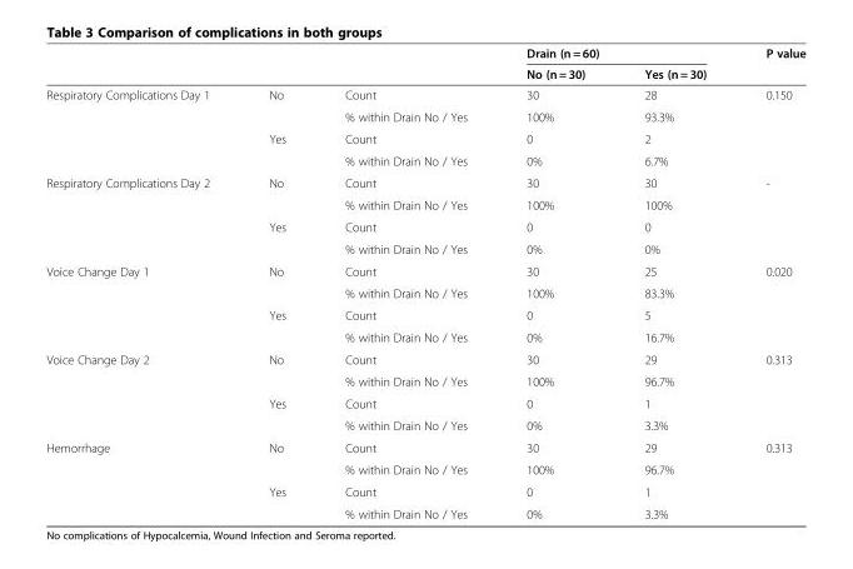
<table><thead><tr><td rowspan="2"></td><td rowspan="2"></td><td rowspan="2"></td><td colspan="2">Drain (n = 60)</td><td rowspan="2">P value</td></tr><tr><td>No (n = 30)</td><td>Yes (n = 30)</td></tr></thead><tbody><tr><td rowspan="4">Respiratory Complications Day 1</td><td>No</td><td>Count</td><td>30</td><td>28</td><td rowspan="4">0.150</td></tr><tr><td></td><td>% within Drain No / Yes</td><td>100%</td><td>93.3%</td></tr><tr><td>Yes</td><td>Count</td><td>0</td><td>2</td></tr><tr><td></td><td>% within Drain No / Yes</td><td>0%</td><td>6.7%</td></tr><tr><td rowspan="4">Respiratory Complications Day 2</td><td>No</td><td>Count</td><td>30</td><td>30</td><td rowspan="4">-</td></tr><tr><td></td><td>% within Drain No / Yes</td><td>100%</td><td>100%</td></tr><tr><td>Yes</td><td>Count</td><td>0</td><td>0</td></tr><tr><td></td><td>% within Drain No / Yes</td><td>0%</td><td>0%</td></tr><tr><td rowspan="4">Voice Change Day 1</td><td>No</td><td>Count</td><td>30</td><td>25</td><td rowspan="4">0.020</td></tr><tr><td></td><td>% within Drain No / Yes</td><td>100%</td><td>83.3%</td></tr><tr><td>Yes</td><td>Count</td><td>0</td><td>5</td></tr><tr><td></td><td>% within Drain No / Yes</td><td>0%</td><td>16.7%</td></tr><tr><td rowspan="4">Voice Change Day 2</td><td>No</td><td>Count</td><td>30</td><td>29</td><td rowspan="4">0.313</td></tr><tr><td></td><td>% within Drain No / Yes</td><td>100%</td><td>96.7%</td></tr><tr><td>Yes</td><td>Count</td><td>0</td><td>1</td></tr><tr><td></td><td>% within Drain No / Yes</td><td>0%</td><td>3.3%</td></tr><tr><td rowspan="4">Hemorrhage</td><td>No</td><td>Count</td><td>30</td><td>29</td><td rowspan="3">0.313</td></tr><tr><td></td><td>% within Drain No / Yes</td><td>100%</td><td>96.7%</td></tr><tr><td>Yes</td><td>Count</td><td>0</td><td>1</td></tr><tr><td></td><td>% within Drain No / Yes</td><td>0%</td><td>3.3%</td><td></td></tr></tbody></table>